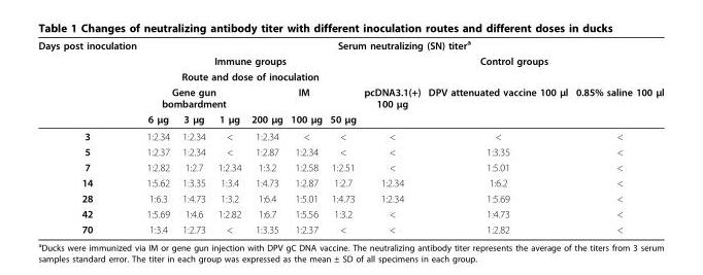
<table><thead><tr><td rowspan="5">Days post inoculation</td><td colspan="9">Serum neutralizing (SN) titer<sup>a</sup></td></tr><tr><td rowspan="2" colspan="6">Immune groups Route and dose of inoculation</td><td colspan="3">Control groups</td></tr><tr><td rowspan="3">pcDNA3.1(+) 100 μg</td><td rowspan="3">DPV attenuated vaccine 100 μl</td><td rowspan="3">0.85% saline 100 μl</td></tr><tr><td colspan="3">Gene gun bombardment</td><td colspan="3">IM</td></tr><tr><td>6 μg</td><td>3 μg</td><td>1 μg</td><td>200 μg</td><td>100 μg</td><td>50 μg</td></tr></thead><tbody><tr><td>3</td><td>1:2.34</td><td>1:2.34</td><td>&lt;</td><td>1:2.34</td><td>&lt;</td><td>&lt;</td><td>&lt;</td><td>&lt;</td><td>&lt;</td></tr><tr><td>5</td><td>1:2.37</td><td>1:2.34</td><td>&lt;</td><td>1:2.87</td><td>1:2.34</td><td>&lt;</td><td>&lt;</td><td>1:3.35</td><td>&lt;</td></tr><tr><td>7</td><td>1:2.82</td><td>1:2.7</td><td>1:2.34</td><td>1:3.2</td><td>1:2.58</td><td>1:2.51</td><td>&lt;</td><td>1:5.01</td><td>&lt;</td></tr><tr><td>14</td><td>1:5.62</td><td>1:3.35</td><td>1:3.4</td><td>1:4.73</td><td>1:2.87</td><td>1:2.7</td><td>1:2.34</td><td>1:6.2</td><td>&lt;</td></tr><tr><td>28</td><td>1:6.3</td><td>1:4.73</td><td>1:3.2</td><td>1:6.4</td><td>1:5.01</td><td>1:4.73</td><td>1:2.34</td><td>1:5.69</td><td>&lt;</td></tr><tr><td>42</td><td>1:5.69</td><td>1:4.6</td><td>1:2.82</td><td>1:6.7</td><td>1:5.56</td><td>1:3.2</td><td>&lt;</td><td>1:4.73</td><td>&lt;</td></tr><tr><td>70</td><td>1:3.4</td><td>1:2.73</td><td>&lt;</td><td>1:3.35</td><td>1:2.37</td><td>&lt;</td><td>&lt;</td><td>1:2.82</td><td>&lt;</td></tr></tbody></table>